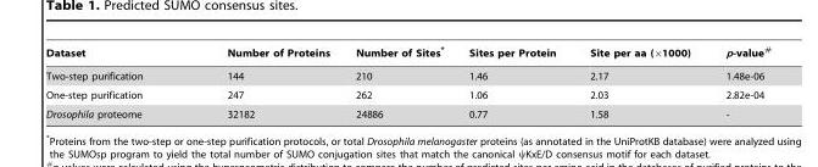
<table><thead><tr><td>Dataset</td><td>Number of Proteins</td><td>Number of Sites*</td><td>Sites per Protein</td><td>Site per aa (×1000)</td><td>p-value#</td></tr></thead><tbody><tr><td>Two-step purification</td><td>144</td><td>210</td><td>1.46</td><td>2.17</td><td>1.48e-06</td></tr><tr><td>One-step purification</td><td>247</td><td>262</td><td>1.06</td><td>2.03</td><td>2.82e-04</td></tr><tr><td>Drosophila proteome</td><td>32182</td><td>24886</td><td>0.77</td><td>1.58</td><td>-</td></tr></tbody></table>